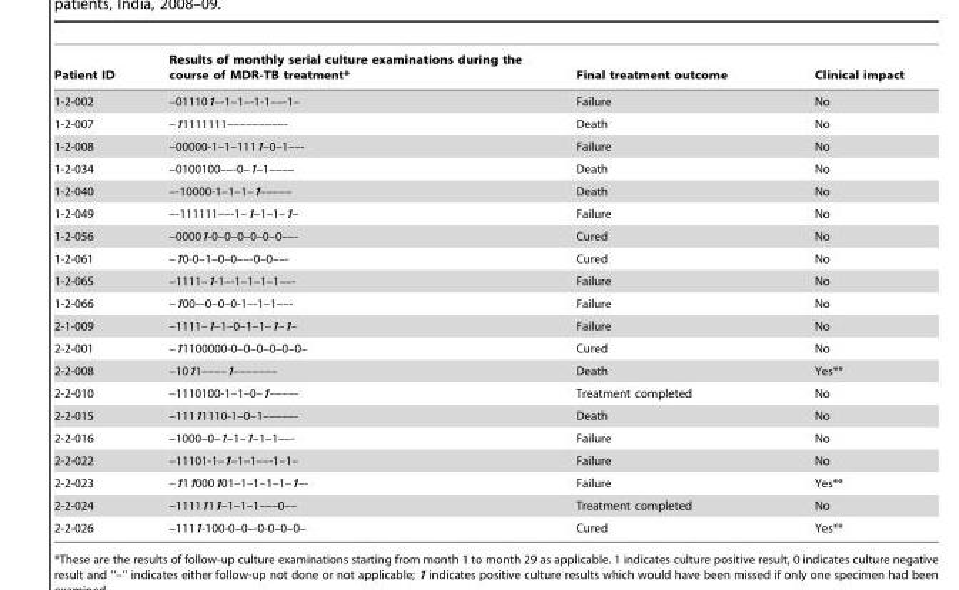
<table><thead><tr><td>Patient ID</td><td>Results of monthly serial culture examinations during the course of MDR-TB treatment*</td><td>Final treatment outcome</td><td>Clinical impact</td></tr></thead><tbody><tr><td>1-2-002</td><td>–011101–-1–1–-1-1––-1–</td><td>Failure</td><td>No</td></tr><tr><td>1-2-007</td><td>–11111111–––––––––-</td><td>Death</td><td>No</td></tr><tr><td>1-2-008</td><td>–00000-1–1–1111–0–1––-</td><td>Failure</td><td>No</td></tr><tr><td>1-2-034</td><td>–0100100––-0–1–1––––</td><td>Death</td><td>No</td></tr><tr><td>1-2-040</td><td>–-10000-1–1–1–1–––––</td><td>Death</td><td>No</td></tr><tr><td>1-2-049</td><td>–-111111––-1–1–1–1–1–</td><td>Failure</td><td>No</td></tr><tr><td>1-2-056</td><td>–00001-0–0–0–0–0–0––-</td><td>Cured</td><td>No</td></tr><tr><td>1-2-061</td><td>–10-0–1–0–0––-0–0––-</td><td>Cured</td><td>No</td></tr><tr><td>1-2-065</td><td>–1111–1-1–-1–1–1–1––-</td><td>Failure</td><td>No</td></tr><tr><td>1-2-066</td><td>–100–-0–0–0-1–-1–1––-</td><td>Failure</td><td>No</td></tr><tr><td>2-1-009</td><td>–1111–1–1–0–1–1–1–1–</td><td>Failure</td><td>No</td></tr><tr><td>2-2-001</td><td>–11100000-0–0–0–0–0–0–</td><td>Cured</td><td>No</td></tr><tr><td>2-2-008</td><td>–1011––––1–––––––</td><td>Death</td><td>Yes**</td></tr><tr><td>2-2-010</td><td>–1110100-1–1–0–1––––-</td><td>Treatment completed</td><td>No</td></tr><tr><td>2-2-015</td><td>–11111110-1–0–1–––––-</td><td>Death</td><td>No</td></tr><tr><td>2-2-016</td><td>–1000–0–1–1–1–1–1––-</td><td>Failure</td><td>No</td></tr><tr><td>2-2-022</td><td>–11101-1–1–1–1––-1–1–</td><td>Failure</td><td>No</td></tr><tr><td>2-2-023</td><td>–111000101–1–1–1–1–1–-</td><td>Failure</td><td>Yes**</td></tr><tr><td>2-2-024</td><td>–1111111–1–1–1–––0––</td><td>Treatment completed</td><td>No</td></tr><tr><td>2-2-026</td><td>–1111-100-0–0–-0-0–0–0–</td><td>Cured</td><td>Yes**</td></tr></tbody></table>